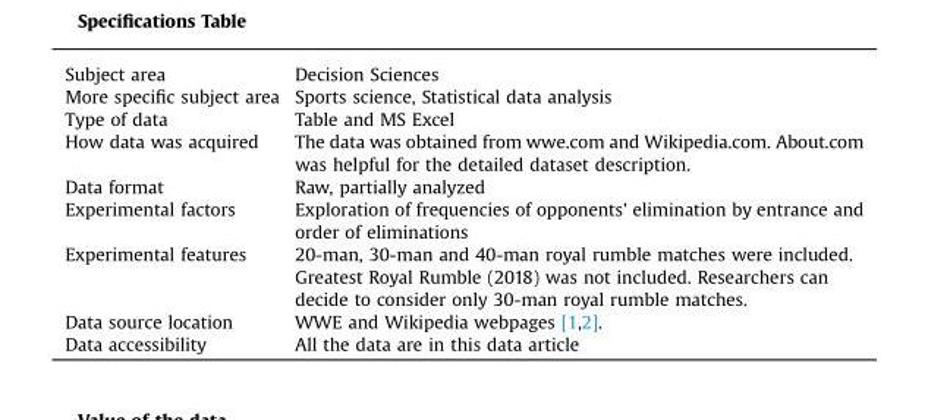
<table><thead><tr><td>Subject area</td><td>Decision Sciences</td></tr></thead><tbody><tr><td>More specific subject area</td><td>Sports science, Statistical data analysis</td></tr><tr><td>Type of data</td><td>Table and MS Excel</td></tr><tr><td>How data was acquired</td><td>The data was obtained from wwe.com and Wikipedia.com. About.com was helpful for the detailed dataset description.</td></tr><tr><td>Data format</td><td>Raw, partially analyzed</td></tr><tr><td>Experimental factors</td><td>Exploration of frequencies of opponents’ elimination by entrance and order of eliminations</td></tr><tr><td>Experimental features</td><td>20-man, 30-man and 40-man royal rumble matches were included. Greatest Royal Rumble (2018) was not included. Researchers can decide to consider only 30-man royal rumble matches.</td></tr><tr><td>Data source location</td><td>WWE and Wikipedia webpages [1,2].</td></tr><tr><td>Data accessibility</td><td>All the data are in this data article</td></tr></tbody></table>